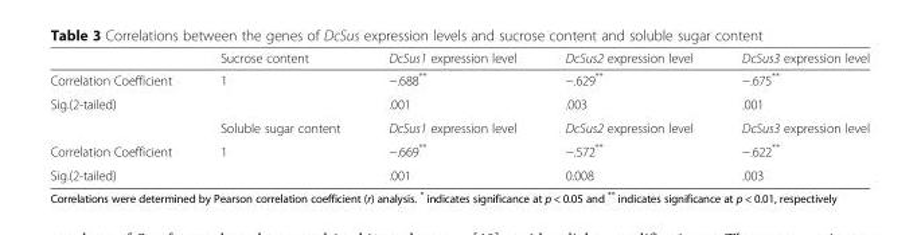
<table><thead><tr><td></td><td>Sucrose content</td><td>DcSus1 expression level</td><td>DcSus2 expression level</td><td>DcSus3 expression level</td></tr></thead><tbody><tr><td>Correlation Coefficient</td><td>1</td><td>−.688**</td><td>−.629**</td><td>−.675**</td></tr><tr><td rowspan="2">Sig.(2-tailed)</td><td></td><td>.001</td><td>.003</td><td>.001</td></tr><tr><td>Soluble sugar content</td><td>DcSus1 expression level</td><td>DcSus2 expression level</td><td>DcSus3 expression level</td></tr><tr><td>Correlation Coefficient</td><td>1</td><td>−.669**</td><td>−.572**</td><td>−.622**</td></tr><tr><td>Sig.(2-tailed)</td><td></td><td>.001</td><td>0.008</td><td>.003</td></tr></tbody></table>